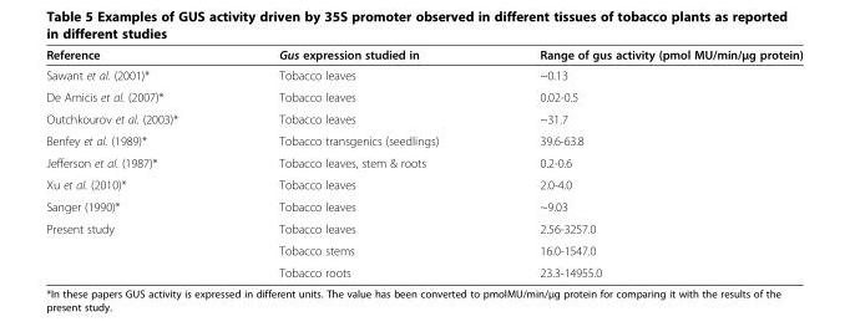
<table><thead><tr><td>Reference</td><td>Gus expression studied in</td><td>Range of gus activity (pmol MU/min/μg protein)</td></tr></thead><tbody><tr><td>Sawant et al. (2001)*</td><td>Tobacco leaves</td><td>~0.13</td></tr><tr><td>De Amicis et al. (2007)*</td><td>Tobacco leaves</td><td>0.02-0.5</td></tr><tr><td>Outchkourov et al. (2003)*</td><td>Tobacco leaves</td><td>~31.7</td></tr><tr><td>Benfey et al. (1989)*</td><td>Tobacco transgenics (seedlings)</td><td>39.6-63.8</td></tr><tr><td>Jefferson et al. (1987)*</td><td>Tobacco leaves, stem &amp; roots</td><td>0.2-0.6</td></tr><tr><td>Xu et al. (2010)*</td><td>Tobacco leaves</td><td>2.0-4.0</td></tr><tr><td>Sanger (1990)*</td><td>Tobacco leaves</td><td>~9.03</td></tr><tr><td rowspan="3">Present study</td><td>Tobacco leaves</td><td>2.56-3257.0</td></tr><tr><td>Tobacco stems</td><td>16.0-1547.0</td></tr><tr><td>Tobacco roots</td><td>23.3-14955.0</td></tr></tbody></table>